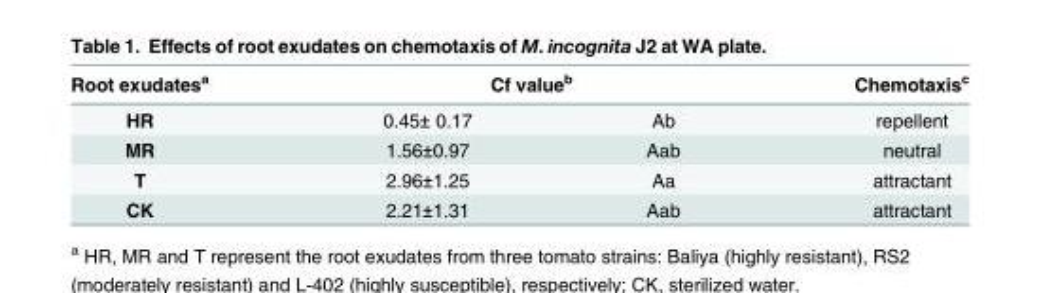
<table><thead><tr><td rowspan="2">Root exudates<sup>a</sup> HR</td><td colspan="2">Cf value<sup>b</sup></td><td rowspan="2">Chemotaxis<sup>c</sup> repellent</td></tr><tr><td>0.45± 0.17</td><td>Ab</td></tr></thead><tbody><tr><td>MR</td><td>1.56±0.97</td><td>Aab</td><td>neutral</td></tr><tr><td>T</td><td>2.96±1.25</td><td>Aa</td><td>attractant</td></tr><tr><td>CK</td><td>2.21±1.31</td><td>Aab</td><td>attractant</td></tr></tbody></table>